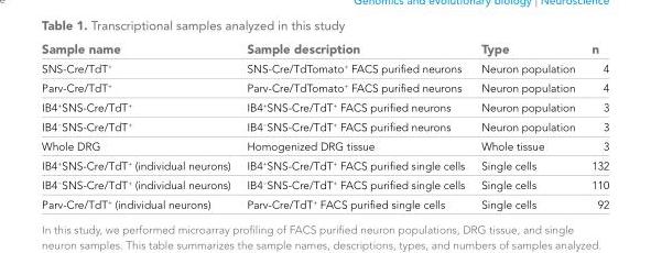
<table><thead><tr><td>Sample name</td><td>Sample description</td><td>Type</td><td>n</td></tr></thead><tbody><tr><td>SNS-Cre/TdT<sup>+</sup></td><td>SNS-Cre/TdTomato<sup>+</sup> FACS purified neurons</td><td>Neuron population</td><td>4</td></tr><tr><td>Parv-Cre/TdT<sup>+</sup></td><td>Parv-Cre/TdTomato<sup>+</sup> FACS purified neurons</td><td>Neuron population</td><td>4</td></tr><tr><td>IB4<sup>+</sup>SNS-Cre/TdT<sup>+</sup></td><td>IB4<sup>+</sup>SNS-Cre/TdT<sup>+</sup> FACS purified neurons</td><td>Neuron population</td><td>3</td></tr><tr><td>IB4<sup>−</sup>SNS-Cre/TdT<sup>+</sup></td><td>IB4<sup>−</sup>SNS-Cre/TdT<sup>+</sup> FACS purified neurons</td><td>Neuron population</td><td>3</td></tr><tr><td>Whole DRG</td><td>Homogenized DRG tissue</td><td>Whole tissue</td><td>3</td></tr><tr><td>IB4<sup>+</sup>SNS-Cre/TdT<sup>+</sup> (individual neurons)</td><td>IB4<sup>+</sup>SNS-Cre/TdT<sup>+</sup> FACS purified single cells</td><td>Single cells</td><td>132</td></tr><tr><td>IB4<sup>−</sup>SNS-Cre/TdT<sup>+</sup> (individual neurons)</td><td>IB4<sup>−</sup>SNS-Cre/TdT<sup>+</sup> FACS purified single cells</td><td>Single cells</td><td>110</td></tr><tr><td>Parv-Cre/TdT<sup>+</sup> (individual neurons)</td><td>Parv-Cre/TdT<sup>+</sup> FACS purified single cells</td><td>Single cells</td><td>92</td></tr></tbody></table>